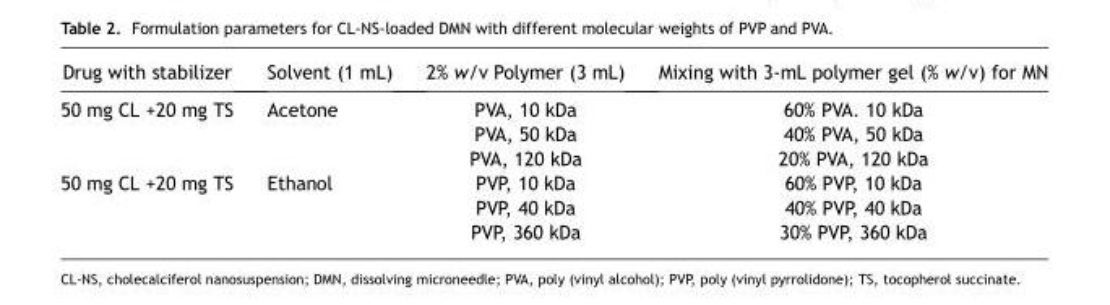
<table><thead><tr><td>Drug with stabilizer</td><td>Solvent (1 mL)</td><td>2% w/v Polymer (3 mL)</td><td>Mixing with 3-mL polymer gel (% w/v) for MN</td></tr></thead><tbody><tr><td rowspan="3">50 mg CL +20 mg TS</td><td rowspan="3">Acetone</td><td>PVA, 10 kDa</td><td>60% PVA. 10 kDa</td></tr><tr><td>PVA, 50 kDa</td><td>40% PVA, 50 kDa</td></tr><tr><td>PVA, 120 kDa</td><td>20% PVA, 120 kDa</td></tr><tr><td rowspan="3">50 mg CL +20 mg TS</td><td rowspan="3">Ethanol</td><td>PVP, 10 kDa</td><td>60% PVP, 10 kDa</td></tr><tr><td>PVP, 40 kDa</td><td>40% PVP, 40 kDa</td></tr><tr><td>PVP, 360 kDa</td><td>30% PVP, 360 kDa</td></tr></tbody></table>